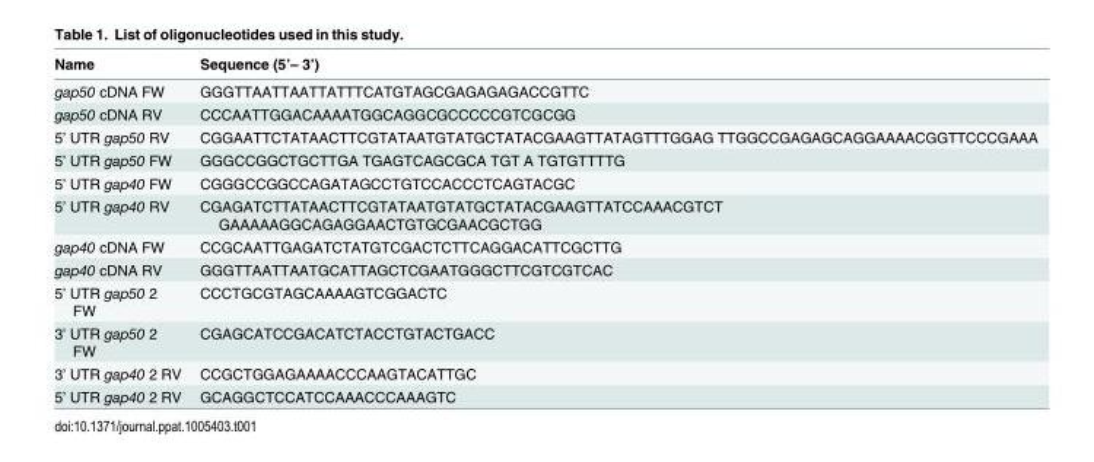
<table><thead><tr><td>Name</td><td>Sequence (5’– 3’)</td></tr></thead><tbody><tr><td>gap50 cDNA FW</td><td>GGGTTAATTAATTATTTCATGTAGCGAGAGAGACCGTTC</td></tr><tr><td>gap50 cDNA RV</td><td>CCCAATTGGACAAAATGGCAGGCGCCCCCGTCGCGG</td></tr><tr><td>5’ UTR gap50 RV</td><td>CGGAATTCTATAACTTCGTATAATGTATGCTATACGAAGTTATAGTTTGGAG TTGGCCGAGAGCAGGAAAACGGTTCCCGAAA</td></tr><tr><td>5’ UTR gap50 FW</td><td>GGGCCGGCTGCTTGA TGAGTCAGCGCA TGT A TGTGTTTTG</td></tr><tr><td>5’ UTR gap40 FW</td><td>CGGGCCGGCCAGATAGCCTGTCCACCCTCAGTACGC</td></tr><tr><td>5’ UTR gap40 RV</td><td>CGAGATCTTATAACTTCGTATAATGTATGCTATACGAAGTTATCCAAACGTCT GAAAAAGGCAGAGGAACTGTGCGAACGCTGG</td></tr><tr><td>gap40 cDNA FW</td><td>CCGCAATTGAGATCTATGTCGACTCTTCAGGACATTCGCTTG</td></tr><tr><td>gap40 cDNA RV</td><td>GGGTTAATTAATGCATTAGCTCGAATGGGCTTCGTCGTCAC</td></tr><tr><td>5’ UTR gap50 2 FW</td><td>CCCTGCGTAGCAAAAGTCGGACTC</td></tr><tr><td>3’ UTR gap50 2 FW</td><td>CGAGCATCCGACATCTACCTGTACTGACC</td></tr><tr><td>3’ UTR gap40 2 RV</td><td>CCGCTGGAGAAAACCCAAGTACATTGC</td></tr><tr><td>5’ UTR gap40 2 RV</td><td>GCAGGCTCCATCCAAACCCAAAGTC</td></tr></tbody></table>